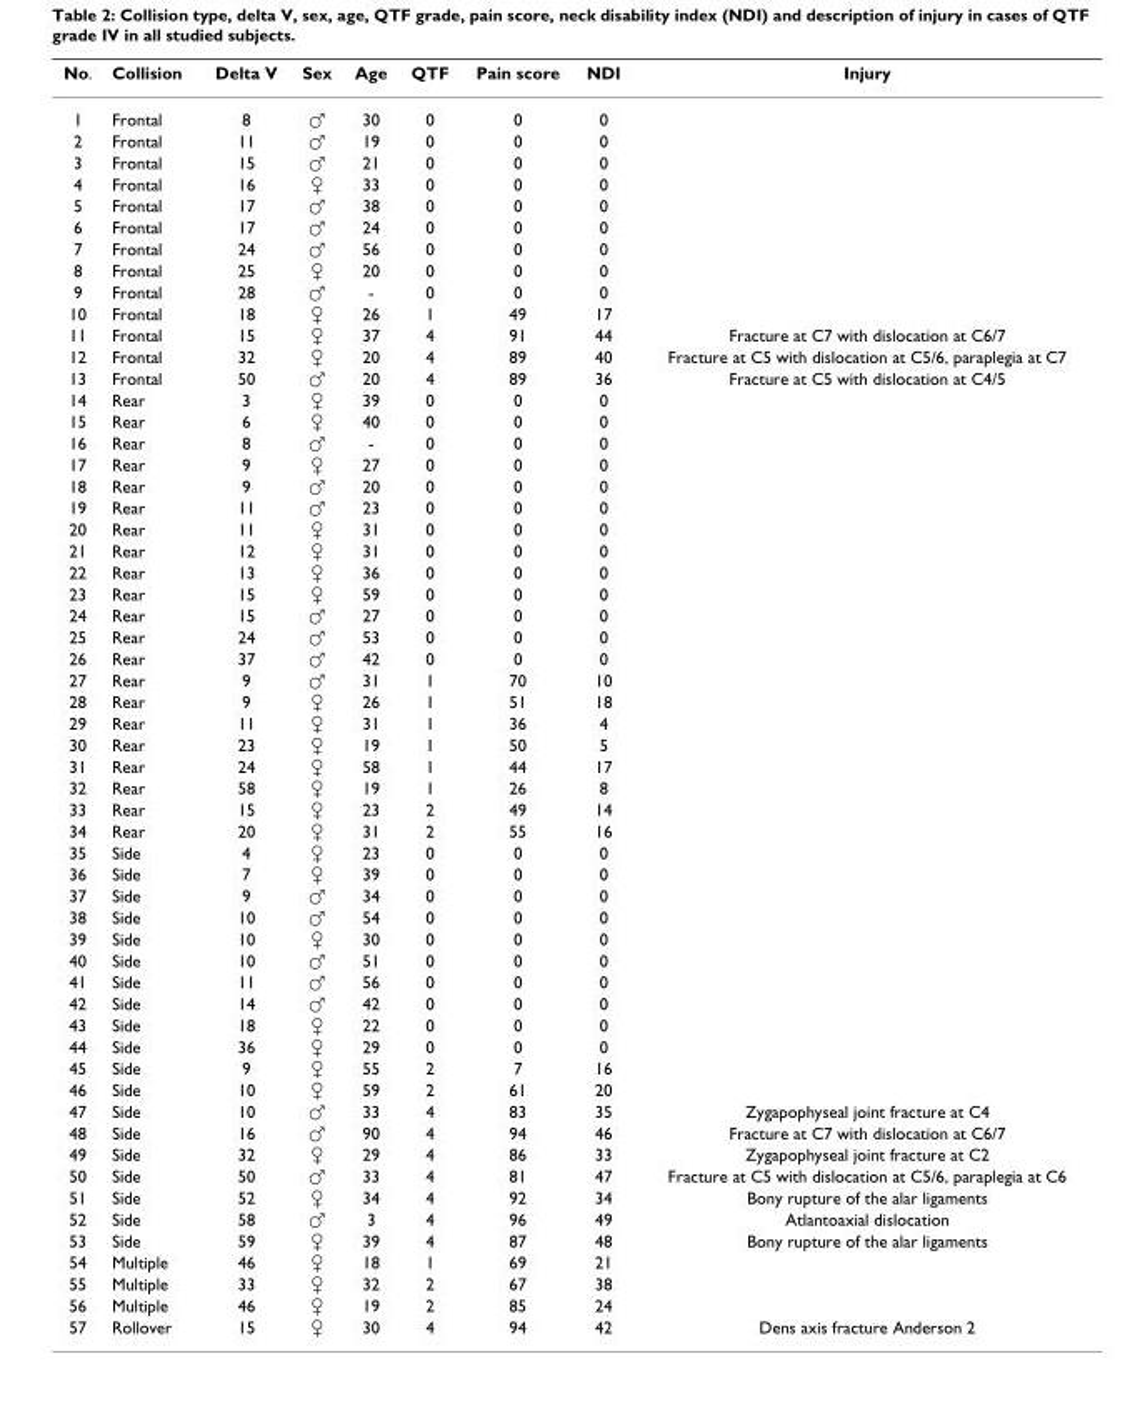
<table><thead><tr><td>No.</td><td>Collision</td><td>Delta V</td><td>Sex</td><td>Age</td><td>QTF</td><td>Pain score</td><td>NDI</td><td>Injury</td></tr></thead><tbody><tr><td>1</td><td>Frontal</td><td>8</td><td>♂</td><td>30</td><td>0</td><td>0</td><td>0</td><td></td></tr><tr><td>2</td><td>Frontal</td><td>11</td><td>♂</td><td>19</td><td>0</td><td>0</td><td>0</td><td></td></tr><tr><td>3</td><td>Frontal</td><td>15</td><td>♂</td><td>21</td><td>0</td><td>0</td><td>0</td><td></td></tr><tr><td>4</td><td>Frontal</td><td>16</td><td>♀</td><td>33</td><td>0</td><td>0</td><td>0</td><td></td></tr><tr><td>5</td><td>Frontal</td><td>17</td><td>♂</td><td>38</td><td>0</td><td>0</td><td>0</td><td></td></tr><tr><td>6</td><td>Frontal</td><td>17</td><td>♂</td><td>24</td><td>0</td><td>0</td><td>0</td><td></td></tr><tr><td>7</td><td>Frontal</td><td>24</td><td>♂</td><td>56</td><td>0</td><td>0</td><td>0</td><td></td></tr><tr><td>8</td><td>Frontal</td><td>25</td><td>♀</td><td>20</td><td>0</td><td>0</td><td>0</td><td></td></tr><tr><td>9</td><td>Frontal</td><td>28</td><td>♂</td><td>-</td><td>0</td><td>0</td><td>0</td><td></td></tr><tr><td>10</td><td>Frontal</td><td>18</td><td>♀</td><td>26</td><td>1</td><td>49</td><td>17</td><td></td></tr><tr><td>11</td><td>Frontal</td><td>15</td><td>♀</td><td>37</td><td>4</td><td>91</td><td>44</td><td>Fracture at C7 with dislocation at C6/7</td></tr><tr><td>12</td><td>Frontal</td><td>32</td><td>♀</td><td>20</td><td>4</td><td>89</td><td>40</td><td>Fracture at C5 with dislocation at C5/6, paraplegia at C7</td></tr><tr><td>13</td><td>Frontal</td><td>50</td><td>♂</td><td>20</td><td>4</td><td>89</td><td>36</td><td>Fracture at C5 with dislocation at C4/5</td></tr><tr><td>14</td><td>Rear</td><td>3</td><td>♀</td><td>39</td><td>0</td><td>0</td><td>0</td><td></td></tr><tr><td>15</td><td>Rear</td><td>6</td><td>♀</td><td>40</td><td>0</td><td>0</td><td>0</td><td></td></tr><tr><td>16</td><td>Rear</td><td>8</td><td>♂</td><td>-</td><td>0</td><td>0</td><td>0</td><td></td></tr><tr><td>17</td><td>Rear</td><td>9</td><td>♀</td><td>27</td><td>0</td><td>0</td><td>0</td><td></td></tr><tr><td>18</td><td>Rear</td><td>9</td><td>♂</td><td>20</td><td>0</td><td>0</td><td>0</td><td></td></tr><tr><td>19</td><td>Rear</td><td>11</td><td>♂</td><td>23</td><td>0</td><td>0</td><td>0</td><td></td></tr><tr><td>20</td><td>Rear</td><td>11</td><td>♀</td><td>31</td><td>0</td><td>0</td><td>0</td><td></td></tr><tr><td>21</td><td>Rear</td><td>12</td><td>♀</td><td>31</td><td>0</td><td>0</td><td>0</td><td></td></tr><tr><td>22</td><td>Rear</td><td>13</td><td>♀</td><td>36</td><td>0</td><td>0</td><td>0</td><td></td></tr><tr><td>23</td><td>Rear</td><td>15</td><td>♀</td><td>59</td><td>0</td><td>0</td><td>0</td><td></td></tr><tr><td>24</td><td>Rear</td><td>15</td><td>♂</td><td>27</td><td>0</td><td>0</td><td>0</td><td></td></tr><tr><td>25</td><td>Rear</td><td>24</td><td>♂</td><td>53</td><td>0</td><td>0</td><td>0</td><td></td></tr><tr><td>26</td><td>Rear</td><td>37</td><td>♂</td><td>42</td><td>0</td><td>0</td><td>0</td><td></td></tr><tr><td>27</td><td>Rear</td><td>9</td><td>♂</td><td>31</td><td>1</td><td>70</td><td>10</td><td></td></tr><tr><td>28</td><td>Rear</td><td>9</td><td>♀</td><td>26</td><td>1</td><td>51</td><td>18</td><td></td></tr><tr><td>29</td><td>Rear</td><td>11</td><td>♀</td><td>31</td><td>1</td><td>36</td><td>4</td><td></td></tr><tr><td>30</td><td>Rear</td><td>23</td><td>♀</td><td>19</td><td>1</td><td>50</td><td>5</td><td></td></tr><tr><td>31</td><td>Rear</td><td>24</td><td>♀</td><td>58</td><td>1</td><td>44</td><td>17</td><td></td></tr><tr><td>32</td><td>Rear</td><td>58</td><td>♀</td><td>19</td><td>1</td><td>26</td><td>8</td><td></td></tr><tr><td>33</td><td>Rear</td><td>15</td><td>♀</td><td>23</td><td>2</td><td>49</td><td>14</td><td></td></tr><tr><td>34</td><td>Rear</td><td>20</td><td>♀</td><td>31</td><td>2</td><td>55</td><td>16</td><td></td></tr><tr><td>35</td><td>Side</td><td>4</td><td>♀</td><td>23</td><td>0</td><td>0</td><td>0</td><td></td></tr><tr><td>36</td><td>Side</td><td>7</td><td>♀</td><td>39</td><td>0</td><td>0</td><td>0</td><td></td></tr><tr><td>37</td><td>Side</td><td>9</td><td>♂</td><td>34</td><td>0</td><td>0</td><td>0</td><td></td></tr><tr><td>38</td><td>Side</td><td>10</td><td>♂</td><td>54</td><td>0</td><td>0</td><td>0</td><td></td></tr><tr><td>39</td><td>Side</td><td>10</td><td>♀</td><td>30</td><td>0</td><td>0</td><td>0</td><td></td></tr><tr><td>40</td><td>Side</td><td>10</td><td>♂</td><td>51</td><td>0</td><td>0</td><td>0</td><td></td></tr><tr><td>41</td><td>Side</td><td>11</td><td>♂</td><td>56</td><td>0</td><td>0</td><td>0</td><td></td></tr><tr><td>42</td><td>Side</td><td>14</td><td>♂</td><td>42</td><td>0</td><td>0</td><td>0</td><td></td></tr><tr><td>43</td><td>Side</td><td>18</td><td>♀</td><td>22</td><td>0</td><td>0</td><td>0</td><td></td></tr><tr><td>44</td><td>Side</td><td>36</td><td>♀</td><td>29</td><td>0</td><td>0</td><td>0</td><td></td></tr><tr><td>45</td><td>Side</td><td>9</td><td>♀</td><td>55</td><td>2</td><td>7</td><td>16</td><td></td></tr><tr><td>46</td><td>Side</td><td>10</td><td>♀</td><td>59</td><td>2</td><td>61</td><td>20</td><td></td></tr><tr><td>47</td><td>Side</td><td>10</td><td>♂</td><td>33</td><td>4</td><td>83</td><td>35</td><td>Zygapophyseal joint fracture at C4</td></tr><tr><td>48</td><td>Side</td><td>16</td><td>♂</td><td>90</td><td>4</td><td>94</td><td>46</td><td>Fracture at C7 with dislocation at C6/7</td></tr><tr><td>49</td><td>Side</td><td>32</td><td>♀</td><td>29</td><td>4</td><td>86</td><td>33</td><td>Zygapophyseal joint fracture at C2</td></tr><tr><td>50</td><td>Side</td><td>50</td><td>♂</td><td>33</td><td>4</td><td>81</td><td>47</td><td>Fracture at C5 with dislocation at C5/6, paraplegia at C6</td></tr><tr><td>51</td><td>Side</td><td>52</td><td>♀</td><td>34</td><td>4</td><td>92</td><td>34</td><td>Bony rupture of the alar ligaments</td></tr><tr><td>52</td><td>Side</td><td>58</td><td>♂</td><td>3</td><td>4</td><td>96</td><td>49</td><td>Atlantoaxial dislocation</td></tr><tr><td>53</td><td>Side</td><td>59</td><td>♀</td><td>39</td><td>4</td><td>87</td><td>48</td><td>Bony rupture of the alar ligaments</td></tr><tr><td>54</td><td>Multiple</td><td>46</td><td>♀</td><td>18</td><td>1</td><td>69</td><td>21</td><td></td></tr><tr><td>55</td><td>Multiple</td><td>33</td><td>♀</td><td>32</td><td>2</td><td>67</td><td>38</td><td></td></tr><tr><td>56</td><td>Multiple</td><td>46</td><td>♀</td><td>19</td><td>2</td><td>85</td><td>24</td><td></td></tr><tr><td>57</td><td>Rollover</td><td>15</td><td>♀</td><td>30</td><td>4</td><td>94</td><td>42</td><td>Dens axis fracture Anderson 2</td></tr></tbody></table>